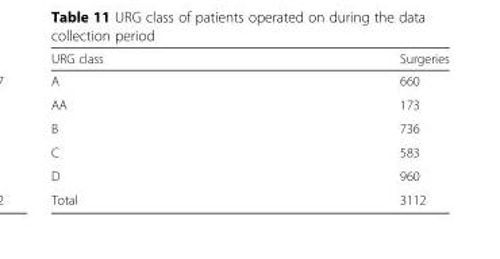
<table><thead><tr><td>URG class</td><td>Surgeries</td></tr></thead><tbody><tr><td>A</td><td>660</td></tr><tr><td>AA</td><td>173</td></tr><tr><td>B</td><td>736</td></tr><tr><td>C</td><td>583</td></tr><tr><td>D</td><td>960</td></tr><tr><td>Total</td><td>3112</td></tr></tbody></table>